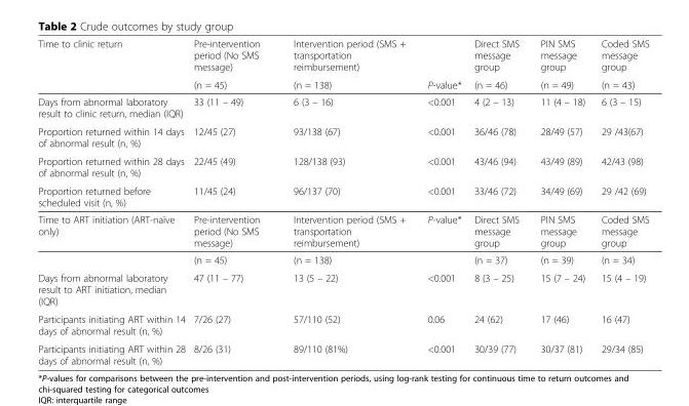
<table><tbody><tr><td rowspan="2">Time to clinic return</td><td>Pre-intervention period (No SMS message)</td><td>Intervention period (SMS + transportation reimbursement)</td><td></td><td>Direct SMS message group</td><td>PIN SMS message group</td><td>Coded SMS message group</td></tr><tr><td>(n = 45)</td><td>(n = 138)</td><td>P-value*</td><td>(n = 46)</td><td>(n = 49)</td><td>(n = 43)</td></tr><tr><td>Days from abnormal laboratory result to clinic return, median (IQR)</td><td>33 (11 – 49)</td><td>6 (3 – 16)</td><td>&lt;0.001</td><td>4 (2 – 13)</td><td>11 (4 – 18)</td><td>6 (3 – 15)</td></tr><tr><td>Proportion returned within 14 days of abnormal result (n, %)</td><td>12/45 (27)</td><td>93/138 (67)</td><td>&lt;0.001</td><td>36/46 (78)</td><td>28/49 (57)</td><td>29 /43(67)</td></tr><tr><td>Proportion returned within 28 days of abnormal result (n, %)</td><td>22/45 (49)</td><td>128/138 (93)</td><td>&lt;0.001</td><td>43/46 (94)</td><td>43/49 (89)</td><td>42/43 (98)</td></tr><tr><td>Proportion returned before scheduled visit (n, %)</td><td>11/45 (24)</td><td>96/137 (70)</td><td>&lt;0.001</td><td>33/46 (72)</td><td>34/49 (69)</td><td>29 /42 (69)</td></tr><tr><td rowspan="2">Time to ART initiation (ART-naïve only)</td><td>Pre-intervention period (No SMS message)</td><td>Intervention period (SMS + transportation reimbursement)</td><td>P-value*</td><td>Direct SMS message group</td><td>PIN SMS message group</td><td>Coded SMS message group</td></tr><tr><td>(n = 45)</td><td>(n = 138)</td><td></td><td>(n = 37)</td><td>(n = 39)</td><td>(n = 34)</td></tr><tr><td>Days from abnormal laboratory result to ART initiation, median (IQR)</td><td>47 (11 – 77)</td><td>13 (5 – 22)</td><td>&lt;0.001</td><td>8 (3 – 25)</td><td>15 (7 – 24)</td><td>15 (4 – 19)</td></tr><tr><td>Participants initiating ART within 14 days of abnormal result (n, %)</td><td>7/26 (27)</td><td>57/110 (52)</td><td>0.06</td><td>24 (62)</td><td>17 (46)</td><td>16 (47)</td></tr><tr><td>Participants initiating ART within 28 days of abnormal result (n, %)</td><td>8/26 (31)</td><td>89/110 (81%)</td><td>&lt;0.001</td><td>30/39 (77)</td><td>30/37 (81)</td><td>29/34 (85)</td></tr></tbody></table>